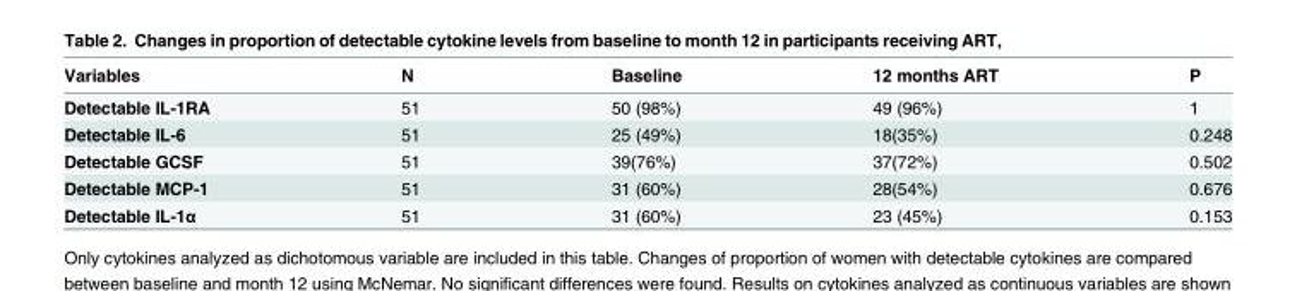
<table><thead><tr><td>Variables</td><td>N</td><td>Baseline</td><td>12 months ART</td><td>P</td></tr></thead><tbody><tr><td>Detectable IL-1RA</td><td>51</td><td>50 (98%)</td><td>49 (96%)</td><td>1</td></tr><tr><td>Detectable IL-6</td><td>51</td><td>25 (49%)</td><td>18(35%)</td><td>0.248</td></tr><tr><td>Detectable GCSF</td><td>51</td><td>39(76%)</td><td>37(72%)</td><td>0.502</td></tr><tr><td>Detectable MCP-1</td><td>51</td><td>31 (60%)</td><td>28(54%)</td><td>0.676</td></tr><tr><td>Detectable IL-1α</td><td>51</td><td>31 (60%)</td><td>23 (45%)</td><td>0.153</td></tr></tbody></table>